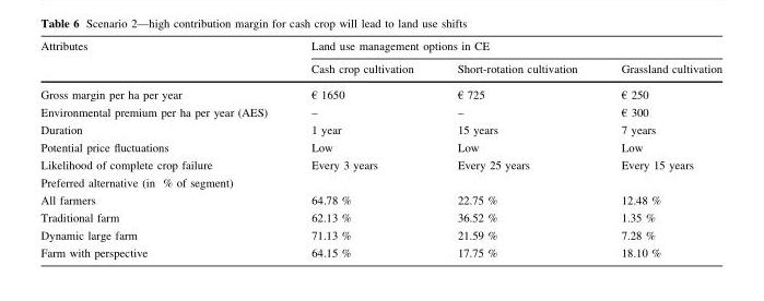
<table><thead><tr><td rowspan="2">Attributes</td><td colspan="3">Land use management options in CE</td></tr><tr><td>Cash crop cultivation</td><td>Short-rotation cultivation</td><td>Grassland cultivation</td></tr></thead><tbody><tr><td>Gross margin per ha per year</td><td>€ 1650</td><td>€ 725</td><td>€ 250</td></tr><tr><td>Environmental premium per ha per year (AES)</td><td>–</td><td>–</td><td>€ 300</td></tr><tr><td>Duration</td><td>1 year</td><td>15 years</td><td>7 years</td></tr><tr><td>Potential price fluctuations</td><td>Low</td><td>Low</td><td>Low</td></tr><tr><td>Likelihood of complete crop failure</td><td>Every 3 years</td><td>Every 25 years</td><td>Every 15 years</td></tr><tr><td colspan="4">Preferred alternative (in % of segment)</td></tr><tr><td>All farmers</td><td>64.78 %</td><td>22.75 %</td><td>12.48 %</td></tr><tr><td>Traditional farm</td><td>62.13 %</td><td>36.52 %</td><td>1.35 %</td></tr><tr><td>Dynamic large farm</td><td>71.13 %</td><td>21.59 %</td><td>7.28 %</td></tr><tr><td>Farm with perspective</td><td>64.15 %</td><td>17.75 %</td><td>18.10 %</td></tr></tbody></table>